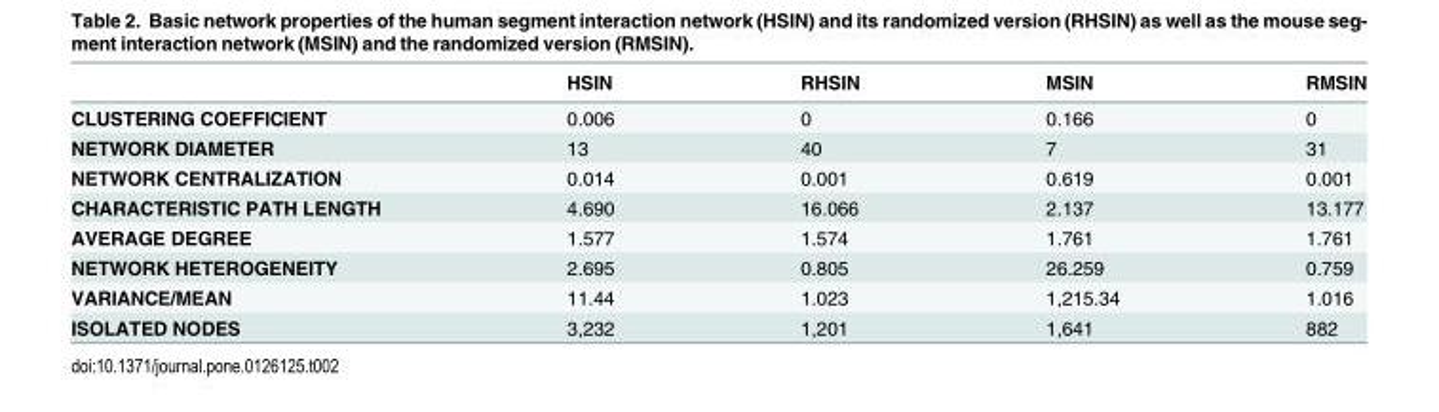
<table><thead><tr><td></td><td>HSIN</td><td>RHSIN</td><td>MSIN</td><td>RMSIN</td></tr></thead><tbody><tr><td>CLUSTERING COEFFICIENT</td><td>0.006</td><td>0</td><td>0.166</td><td>0</td></tr><tr><td>NETWORK DIAMETER</td><td>13</td><td>40</td><td>7</td><td>31</td></tr><tr><td>NETWORK CENTRALIZATION</td><td>0.014</td><td>0.001</td><td>0.619</td><td>0.001</td></tr><tr><td>CHARACTERISTIC PATH LENGTH</td><td>4.690</td><td>16.066</td><td>2.137</td><td>13.177</td></tr><tr><td>AVERAGE DEGREE</td><td>1.577</td><td>1.574</td><td>1.761</td><td>1.761</td></tr><tr><td>NETWORK HETEROGENEITY</td><td>2.695</td><td>0.805</td><td>26.259</td><td>0.759</td></tr><tr><td>VARIANCE/MEAN</td><td>11.44</td><td>1.023</td><td>1,215.34</td><td>1.016</td></tr><tr><td>ISOLATED NODES</td><td>3,232</td><td>1,201</td><td>1,641</td><td>882</td></tr></tbody></table>